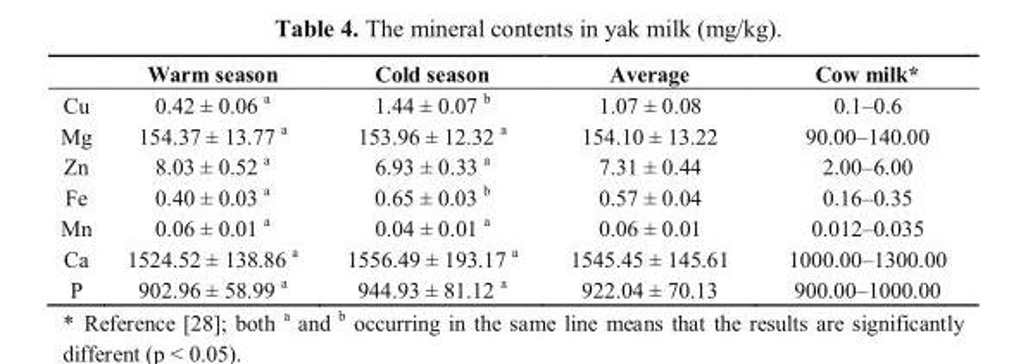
<table><thead><tr><td></td><td>Warm season</td><td>Cold season</td><td>Average</td><td>Cow milk*</td></tr></thead><tbody><tr><td>Cu</td><td>0.42 ± 0.06 <sup>a</sup></td><td>1.44 ± 0.07 <sup>b</sup></td><td>1.07 ± 0.08</td><td>0.1–0.6</td></tr><tr><td>Mg</td><td>154.37 ± 13.77 <sup>a</sup></td><td>153.96 ± 12.32 <sup>a</sup></td><td>154.10 ± 13.22</td><td>90.00–140.00</td></tr><tr><td>Zn</td><td>8.03 ± 0.52 <sup>a</sup></td><td>6.93 ± 0.33 <sup>a</sup></td><td>7.31 ± 0.44</td><td>2.00–6.00</td></tr><tr><td>Fe</td><td>0.40 ± 0.03 <sup>a</sup></td><td>0.65 ± 0.03 <sup>b</sup></td><td>0.57 ± 0.04</td><td>0.16–0.35</td></tr><tr><td>Mn</td><td>0.06 ± 0.01 <sup>a</sup></td><td>0.04 ± 0.01 <sup>a</sup></td><td>0.06 ± 0.01</td><td>0.012–0.035</td></tr><tr><td>Ca</td><td>1524.52 ± 138.86 <sup>a</sup></td><td>1556.49 ± 193.17 <sup>a</sup></td><td>1545.45 ± 145.61</td><td>1000.00–1300.00</td></tr><tr><td>P</td><td>902.96 ± 58.99 <sup>a</sup></td><td>944.93 ± 81.12 <sup>a</sup></td><td>922.04 ± 70.13</td><td>900.00–1000.00</td></tr></tbody></table>